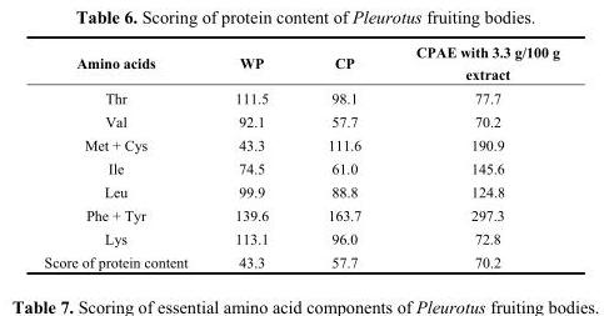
<table><thead><tr><td>Amino acids</td><td>WP</td><td>CP</td><td>CPAE with 3.3 g/100 g extract</td></tr></thead><tbody><tr><td>Thr</td><td>111.5</td><td>98.1</td><td>77.7</td></tr><tr><td>Val</td><td>92.1</td><td>57.7</td><td>70.2</td></tr><tr><td>Met + Cys</td><td>43.3</td><td>111.6</td><td>190.9</td></tr><tr><td>Ile</td><td>74.5</td><td>61.0</td><td>145.6</td></tr><tr><td>Leu</td><td>99.9</td><td>88.8</td><td>124.8</td></tr><tr><td>Phe + Tyr</td><td>139.6</td><td>163.7</td><td>297.3</td></tr><tr><td>Lys</td><td>113.1</td><td>96.0</td><td>72.8</td></tr><tr><td>Score of protein content</td><td>43.3</td><td>57.7</td><td>70.2</td></tr></tbody></table>